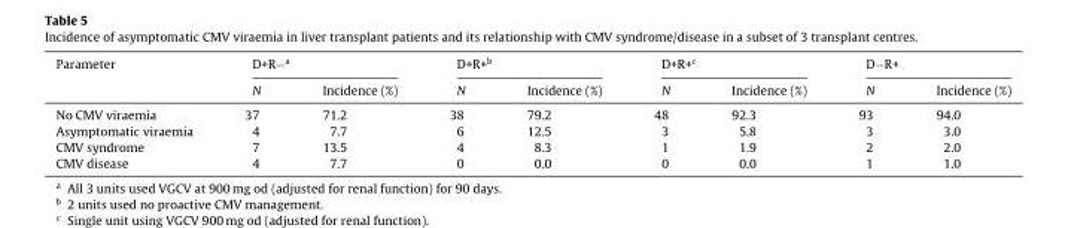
<table><thead><tr><td rowspan="2">Parameter</td><td colspan="2">D+R−a</td><td colspan="2">D+R+<sup>b</sup></td><td colspan="2">D+R+<sup>c</sup></td><td colspan="2">D−R+</td></tr><tr><td>N</td><td>Incidence (%)</td><td>N</td><td>Incidence (%)</td><td>N</td><td>Incidence (%)</td><td>N</td><td>Incidence (%)</td></tr></thead><tbody><tr><td>No CMV viraemia</td><td>37</td><td>71.2</td><td>38</td><td>79.2</td><td>48</td><td>92.3</td><td>93</td><td>94.0</td></tr><tr><td>Asymptomatic viraemia</td><td>4</td><td>7.7</td><td>6</td><td>12.5</td><td>3</td><td>5.8</td><td>3</td><td>3.0</td></tr><tr><td>CMV syndrome</td><td>7</td><td>13.5</td><td>4</td><td>8.3</td><td>1</td><td>1.9</td><td>2</td><td>2.0</td></tr><tr><td>CMV disease</td><td>4</td><td>7.7</td><td>0</td><td>0.0</td><td>0</td><td>0.0</td><td>1</td><td>1.0</td></tr></tbody></table>